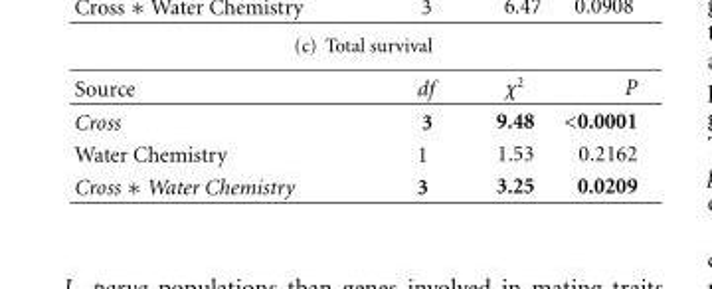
<table><thead><tr><td>Source</td><td>df</td><td>χ<sup>2</sup></td><td>P</td></tr></thead><tbody><tr><td>Cross</td><td>3</td><td>9.48</td><td>&lt;0.0001</td></tr><tr><td>Water Chemistry</td><td>1</td><td>1.53</td><td>0.2162</td></tr><tr><td>Cross ∗ Water Chemistry</td><td>3</td><td>3.25</td><td>0.0209</td></tr></tbody></table>